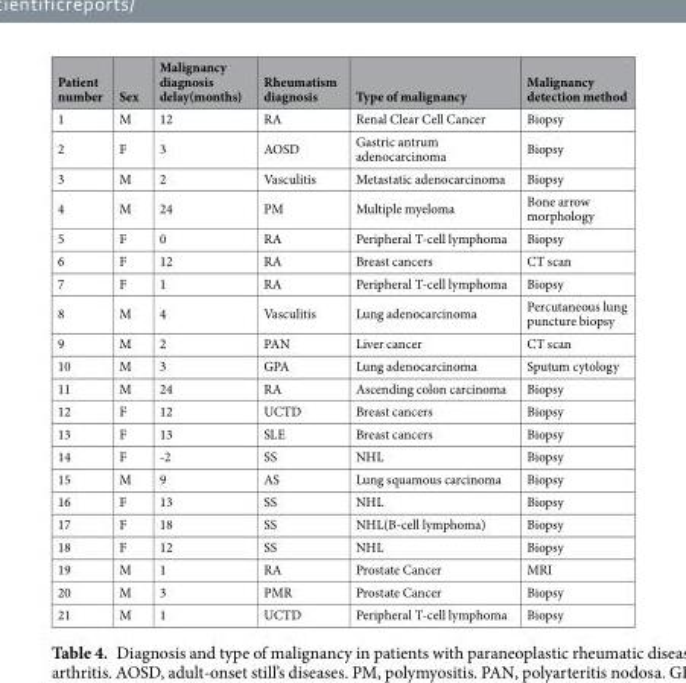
<table><thead><tr><td>Patient number</td><td>Sex</td><td>Malignancy diagnosis delay(months)</td><td>Rheumatism diagnosis</td><td>Type of malignancy</td><td>Malignancy detection method</td></tr></thead><tbody><tr><td>1</td><td>M</td><td>12</td><td>RA</td><td>Renal Clear Cell Cancer</td><td>Biopsy</td></tr><tr><td>2</td><td>F</td><td>3</td><td>AOSD</td><td>Gastric antrum adenocarcinoma</td><td>Biopsy</td></tr><tr><td>3</td><td>M</td><td>2</td><td>Vasculitis</td><td>Metastatic adenocarcinoma</td><td>Biopsy</td></tr><tr><td>4</td><td>M</td><td>24</td><td>PM</td><td>Multiple myeloma</td><td>Bone arrow morphology</td></tr><tr><td>5</td><td>F</td><td>0</td><td>RA</td><td>Peripheral T-cell lymphoma</td><td>Biopsy</td></tr><tr><td>6</td><td>F</td><td>12</td><td>RA</td><td>Breast cancers</td><td>CT scan</td></tr><tr><td>7</td><td>F</td><td>1</td><td>RA</td><td>Peripheral T-cell lymphoma</td><td>Biopsy</td></tr><tr><td>8</td><td>M</td><td>4</td><td>Vasculitis</td><td>Lung adenocarcinoma</td><td>Percutaneous lung puncture biopsy</td></tr><tr><td>9</td><td>M</td><td>2</td><td>PAN</td><td>Liver cancer</td><td>CT scan</td></tr><tr><td>10</td><td>M</td><td>3</td><td>GPA</td><td>Lung adenocarcinoma</td><td>Sputum cytology</td></tr><tr><td>11</td><td>M</td><td>24</td><td>RA</td><td>Ascending colon carcinoma</td><td>Biopsy</td></tr><tr><td>12</td><td>F</td><td>12</td><td>UCTD</td><td>Breast cancers</td><td>Biopsy</td></tr><tr><td>13</td><td>F</td><td>13</td><td>SLE</td><td>Breast cancers</td><td>Biopsy</td></tr><tr><td>14</td><td>F</td><td>-2</td><td>SS</td><td>NHL</td><td>Biopsy</td></tr><tr><td>15</td><td>M</td><td>9</td><td>AS</td><td>Lung squamous carcinoma</td><td>Biopsy</td></tr><tr><td>16</td><td>F</td><td>13</td><td>SS</td><td>NHL</td><td>Biopsy</td></tr><tr><td>17</td><td>F</td><td>18</td><td>SS</td><td>NHL(B-cell lymphoma)</td><td>Biopsy</td></tr><tr><td>18</td><td>F</td><td>12</td><td>SS</td><td>NHL</td><td>Biopsy</td></tr><tr><td>19</td><td>M</td><td>1</td><td>RA</td><td>Prostate Cancer</td><td>MRI</td></tr><tr><td>20</td><td>M</td><td>3</td><td>PMR</td><td>Prostate Cancer</td><td>Biopsy</td></tr><tr><td>21</td><td>M</td><td>1</td><td>UCTD</td><td>Peripheral T-cell lymphoma</td><td>Biopsy</td></tr></tbody></table>